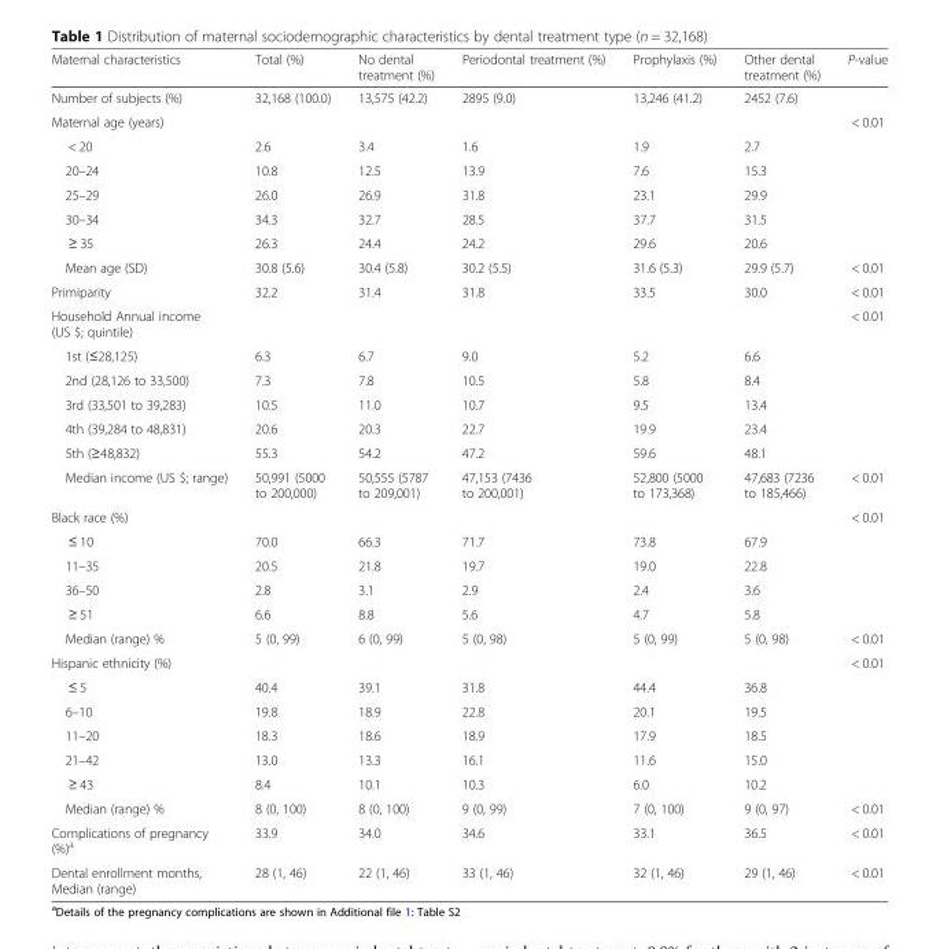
<table><thead><tr><td>Maternal characteristics</td><td>Total (%)</td><td>No dental treatment (%)</td><td>Periodontal treatment (%)</td><td>Prophylaxis (%)</td><td>Other dental treatment (%)</td><td>P-value</td></tr></thead><tbody><tr><td>Number of subjects (%)</td><td>32,168 (100.0)</td><td>13,575 (42.2)</td><td>2895 (9.0)</td><td>13,246 (41.2)</td><td>2452 (7.6)</td><td></td></tr><tr><td>Maternal age (years)</td><td></td><td></td><td></td><td></td><td></td><td>&lt; 0.01</td></tr><tr><td>&lt; 20</td><td>2.6</td><td>3.4</td><td>1.6</td><td>1.9</td><td>2.7</td><td></td></tr><tr><td>20–24</td><td>10.8</td><td>12.5</td><td>13.9</td><td>7.6</td><td>15.3</td><td></td></tr><tr><td>25–29</td><td>26.0</td><td>26.9</td><td>31.8</td><td>23.1</td><td>29.9</td><td></td></tr><tr><td>30–34</td><td>34.3</td><td>32.7</td><td>28.5</td><td>37.7</td><td>31.5</td><td></td></tr><tr><td>≥ 35</td><td>26.3</td><td>24.4</td><td>24.2</td><td>29.6</td><td>20.6</td><td></td></tr><tr><td>Mean age (SD)</td><td>30.8 (5.6)</td><td>30.4 (5.8)</td><td>30.2 (5.5)</td><td>31.6 (5.3)</td><td>29.9 (5.7)</td><td>&lt; 0.01</td></tr><tr><td>Primiparity</td><td>32.2</td><td>31.4</td><td>31.8</td><td>33.5</td><td>30.0</td><td>&lt; 0.01</td></tr><tr><td>Household Annual income (US $; quintile)</td><td></td><td></td><td></td><td></td><td></td><td>&lt; 0.01</td></tr><tr><td>1st (≤28,125)</td><td>6.3</td><td>6.7</td><td>9.0</td><td>5.2</td><td>6.6</td><td></td></tr><tr><td>2nd (28,126 to 33,500)</td><td>7.3</td><td>7.8</td><td>10.5</td><td>5.8</td><td>8.4</td><td></td></tr><tr><td>3rd (33,501 to 39,283)</td><td>10.5</td><td>11.0</td><td>10.7</td><td>9.5</td><td>13.4</td><td></td></tr><tr><td>4th (39,284 to 48,831)</td><td>20.6</td><td>20.3</td><td>22.7</td><td>19.9</td><td>23.4</td><td></td></tr><tr><td>5th (≥48,832)</td><td>55.3</td><td>54.2</td><td>47.2</td><td>59.6</td><td>48.1</td><td></td></tr><tr><td>Median income (US $; range)</td><td>50,991 (5000 to 200,000)</td><td>50,555 (5787 to 209,001)</td><td>47,153 (7436 to 200,001)</td><td>52,800 (5000 to 173,368)</td><td>47,683 (7236 to 185,466)</td><td>&lt; 0.01</td></tr><tr><td>Black race (%)</td><td></td><td></td><td></td><td></td><td></td><td>&lt; 0.01</td></tr><tr><td>≤ 10</td><td>70.0</td><td>66.3</td><td>71.7</td><td>73.8</td><td>67.9</td><td></td></tr><tr><td>11–35</td><td>20.5</td><td>21.8</td><td>19.7</td><td>19.0</td><td>22.8</td><td></td></tr><tr><td>36–50</td><td>2.8</td><td>3.1</td><td>2.9</td><td>2.4</td><td>3.6</td><td></td></tr><tr><td>≥ 51</td><td>6.6</td><td>8.8</td><td>5.6</td><td>4.7</td><td>5.8</td><td></td></tr><tr><td>Median (range) %</td><td>5 (0, 99)</td><td>6 (0, 99)</td><td>5 (0, 98)</td><td>5 (0, 99)</td><td>5 (0, 98)</td><td>&lt; 0.01</td></tr><tr><td>Hispanic ethnicity (%)</td><td></td><td></td><td></td><td></td><td></td><td>&lt; 0.01</td></tr><tr><td>≤ 5</td><td>40.4</td><td>39.1</td><td>31.8</td><td>44.4</td><td>36.8</td><td></td></tr><tr><td>6–10</td><td>19.8</td><td>18.9</td><td>22.8</td><td>20.1</td><td>19.5</td><td></td></tr><tr><td>11–20</td><td>18.3</td><td>18.6</td><td>18.9</td><td>17.9</td><td>18.5</td><td></td></tr><tr><td>21–42</td><td>13.0</td><td>13.3</td><td>16.1</td><td>11.6</td><td>15.0</td><td></td></tr><tr><td>≥ 43</td><td>8.4</td><td>10.1</td><td>10.3</td><td>6.0</td><td>10.2</td><td></td></tr><tr><td>Median (range) %</td><td>8 (0, 100)</td><td>8 (0, 100)</td><td>9 (0, 99)</td><td>7 (0, 100)</td><td>9 (0, 97)</td><td>&lt; 0.01</td></tr><tr><td>Complications of pregnancy (%)<sup>a</sup></td><td>33.9</td><td>34.0</td><td>34.6</td><td>33.1</td><td>36.5</td><td>&lt; 0.01</td></tr><tr><td>Dental enrollment months, Median (range)</td><td>28 (1, 46)</td><td>22 (1, 46)</td><td>33 (1, 46)</td><td>32 (1, 46)</td><td>29 (1, 46)</td><td>&lt; 0.01</td></tr></tbody></table>